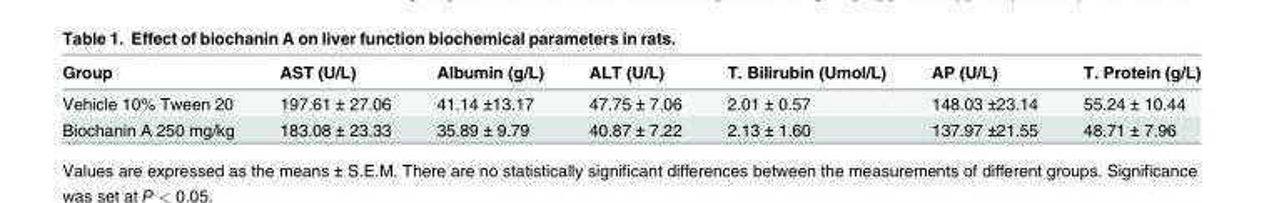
<table><thead><tr><td>Group</td><td>AST (U/L)</td><td>Albumin (g/L)</td><td>ALT (U/L)</td><td>T. Bilirubin (Umol/L)</td><td>AP (U/L)</td><td>T. Protein (g/L)</td></tr></thead><tbody><tr><td>Vehicle 10% Tween 20</td><td>197.61 ± 27.06</td><td>41.14 ±13.17</td><td>47.75 ± 7.06</td><td>2.01 ± 0.57</td><td>148.03 ±23.14</td><td>55.24 ± 10.44</td></tr><tr><td>Biochanin A 250 mg/kg</td><td>183.08 ± 23.33</td><td>35.89 ± 9.79</td><td>40.87 ± 7.22</td><td>2.13 ± 1.60</td><td>137.97 ±21.55</td><td>48.71 ± 7.96</td></tr></tbody></table>